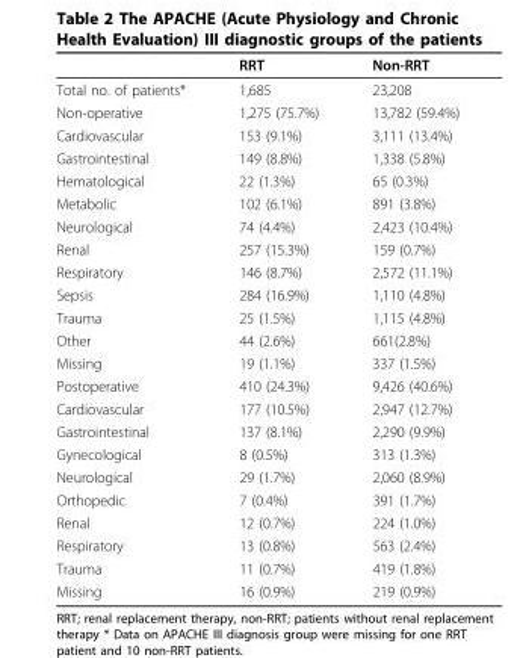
<table><thead><tr><td></td><td>RRT</td><td>Non-RRT</td></tr></thead><tbody><tr><td>Total no. of patients*</td><td>1,685</td><td>23,208</td></tr><tr><td>Non-operative</td><td>1,275 (75.7%)</td><td>13,782 (59.4%)</td></tr><tr><td>Cardiovascular</td><td>153 (9.1%)</td><td>3,111 (13.4%)</td></tr><tr><td>Gastrointestinal</td><td>149 (8.8%)</td><td>1,338 (5.8%)</td></tr><tr><td>Hematological</td><td>22 (1.3%)</td><td>65 (0.3%)</td></tr><tr><td>Metabolic</td><td>102 (6.1%)</td><td>891 (3.8%)</td></tr><tr><td>Neurological</td><td>74 (4.4%)</td><td>2,423 (10.4%)</td></tr><tr><td>Renal</td><td>257 (15.3%)</td><td>159 (0.7%)</td></tr><tr><td>Respiratory</td><td>146 (8.7%)</td><td>2,572 (11.1%)</td></tr><tr><td>Sepsis</td><td>284 (16.9%)</td><td>1,110 (4.8%)</td></tr><tr><td>Trauma</td><td>25 (1.5%)</td><td>1,115 (4.8%)</td></tr><tr><td>Other</td><td>44 (2.6%)</td><td>661(2.8%)</td></tr><tr><td>Missing</td><td>19 (1.1%)</td><td>337 (1.5%)</td></tr><tr><td>Postoperative</td><td>410 (24.3%)</td><td>9,426 (40.6%)</td></tr><tr><td>Cardiovascular</td><td>177 (10.5%)</td><td>2,947 (12.7%)</td></tr><tr><td>Gastrointestinal</td><td>137 (8.1%)</td><td>2,290 (9.9%)</td></tr><tr><td>Gynecological</td><td>8 (0.5%)</td><td>313 (1.3%)</td></tr><tr><td>Neurological</td><td>29 (1.7%)</td><td>2,060 (8.9%)</td></tr><tr><td>Orthopedic</td><td>7 (0.4%)</td><td>391 (1.7%)</td></tr><tr><td>Renal</td><td>12 (0.7%)</td><td>224 (1.0%)</td></tr><tr><td>Respiratory</td><td>13 (0.8%)</td><td>563 (2.4%)</td></tr><tr><td>Trauma</td><td>11 (0.7%)</td><td>419 (1.8%)</td></tr><tr><td>Missing</td><td>16 (0.9%)</td><td>219 (0.9%)</td></tr></tbody></table>